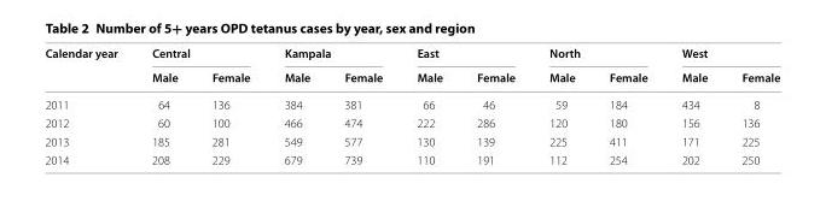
<table><thead><tr><td rowspan="2">Calendar year</td><td colspan="2">Central</td><td colspan="2">Kampala</td><td colspan="2">East</td><td colspan="2">North</td><td colspan="2">West</td></tr><tr><td>Male</td><td>Female</td><td>Male</td><td>Female</td><td>Male</td><td>Female</td><td>Male</td><td>Female</td><td>Male</td><td>Female</td></tr></thead><tbody><tr><td>2011</td><td>64</td><td>136</td><td>384</td><td>381</td><td>66</td><td>46</td><td>59</td><td>184</td><td>434</td><td>8</td></tr><tr><td>2012</td><td>60</td><td>100</td><td>466</td><td>474</td><td>222</td><td>286</td><td>120</td><td>180</td><td>156</td><td>136</td></tr><tr><td>2013</td><td>185</td><td>281</td><td>549</td><td>577</td><td>130</td><td>139</td><td>225</td><td>411</td><td>171</td><td>225</td></tr><tr><td>2014</td><td>208</td><td>229</td><td>679</td><td>739</td><td>110</td><td>191</td><td>112</td><td>254</td><td>202</td><td>250</td></tr></tbody></table>